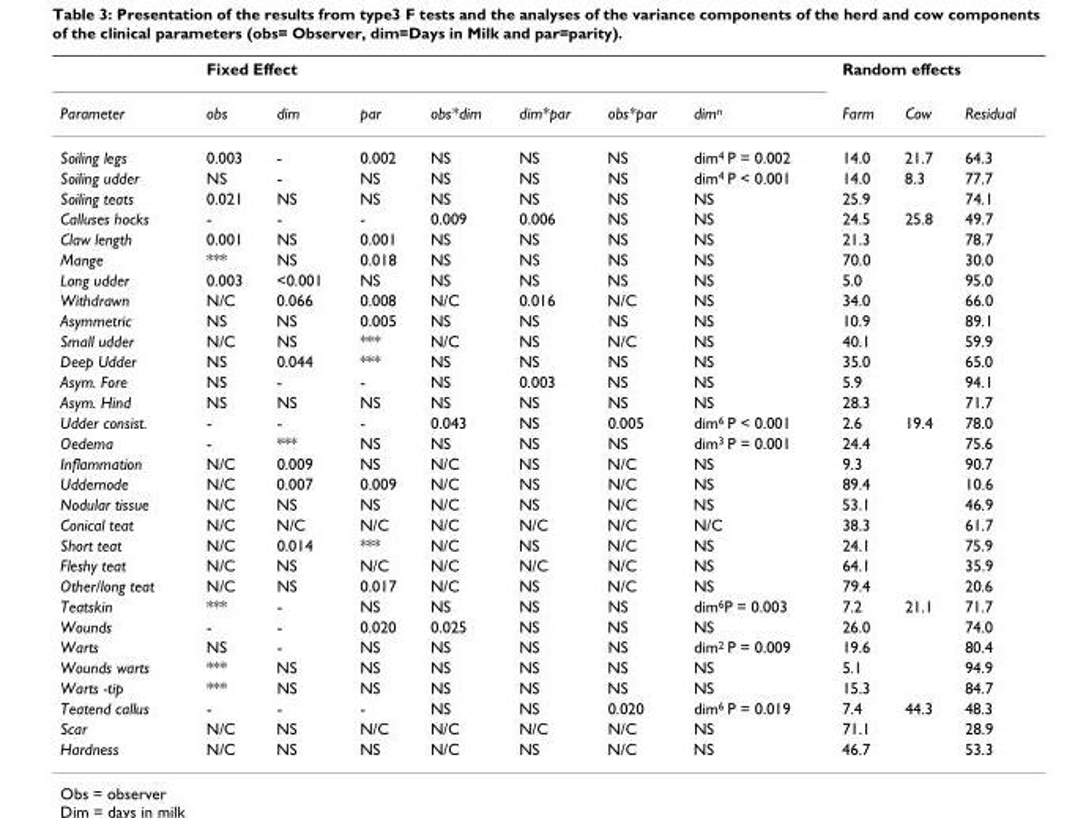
<table><thead><tr><td rowspan="2">Parameter</td><td colspan="7">Fixed Effect</td><td colspan="3">Random effects</td></tr><tr><td>obs</td><td>dim</td><td>par</td><td>obs*dim</td><td>dim*par</td><td>obs*par</td><td>dim<sup>n</sup></td><td>Farm</td><td>Cow</td><td>Residual</td></tr></thead><tbody><tr><td>Soiling legs</td><td>0.003</td><td>-</td><td>0.002</td><td>NS</td><td>NS</td><td>NS</td><td>dim<sup>4</sup> P = 0.002</td><td>14.0</td><td>21.7</td><td>64.3</td></tr><tr><td>Soiling udder</td><td>NS</td><td>-</td><td>NS</td><td>NS</td><td>NS</td><td>NS</td><td>dim<sup>4</sup> P &lt; 0.001</td><td>14.0</td><td>8.3</td><td>77.7</td></tr><tr><td>Soiling teats</td><td>0.021</td><td>NS</td><td>NS</td><td>NS</td><td>NS</td><td>NS</td><td>NS</td><td>25.9</td><td></td><td>74.1</td></tr><tr><td>Calluses hocks</td><td>-</td><td>-</td><td>-</td><td>0.009</td><td>0.006</td><td>NS</td><td>NS</td><td>24.5</td><td>25.8</td><td>49.7</td></tr><tr><td>Claw length</td><td>0.001</td><td>NS</td><td>0.001</td><td>NS</td><td>NS</td><td>NS</td><td>NS</td><td>21.3</td><td></td><td>78.7</td></tr><tr><td>Mange</td><td>***</td><td>NS</td><td>0.018</td><td>NS</td><td>NS</td><td>NS</td><td>NS</td><td>70.0</td><td></td><td>30.0</td></tr><tr><td>Long udder</td><td>0.003</td><td>&lt;0.001</td><td>NS</td><td>NS</td><td>NS</td><td>NS</td><td>NS</td><td>5.0</td><td></td><td>95.0</td></tr><tr><td>Withdrawn</td><td>N/C</td><td>0.066</td><td>0.008</td><td>N/C</td><td>0.016</td><td>N/C</td><td>NS</td><td>34.0</td><td></td><td>66.0</td></tr><tr><td>Asymmetric</td><td>NS</td><td>NS</td><td>0.005</td><td>NS</td><td>NS</td><td>NS</td><td>NS</td><td>10.9</td><td></td><td>89.1</td></tr><tr><td>Small udder</td><td>N/C</td><td>NS</td><td>***</td><td>N/C</td><td>NS</td><td>N/C</td><td>NS</td><td>40.1</td><td></td><td>59.9</td></tr><tr><td>Deep Udder</td><td>NS</td><td>0.044</td><td>***</td><td>NS</td><td>NS</td><td>NS</td><td>NS</td><td>35.0</td><td></td><td>65.0</td></tr><tr><td>Asym. Fore</td><td>NS</td><td>-</td><td>-</td><td>NS</td><td>0.003</td><td>NS</td><td>NS</td><td>5.9</td><td></td><td>94.1</td></tr><tr><td>Asym. Hind</td><td>NS</td><td>NS</td><td>NS</td><td>NS</td><td>NS</td><td>NS</td><td>NS</td><td>28.3</td><td></td><td>71.7</td></tr><tr><td>Udder consist.</td><td>-</td><td>-</td><td>-</td><td>0.043</td><td>NS</td><td>0.005</td><td>dim<sup>6</sup> P &lt; 0.001</td><td>2.6</td><td>19.4</td><td>78.0</td></tr><tr><td>Oedema</td><td>-</td><td>***</td><td>NS</td><td>NS</td><td>NS</td><td>NS</td><td>dim<sup>3</sup> P = 0.001</td><td>24.4</td><td></td><td>75.6</td></tr><tr><td>Inflammation</td><td>N/C</td><td>0.009</td><td>NS</td><td>N/C</td><td>NS</td><td>N/C</td><td>NS</td><td>9.3</td><td></td><td>90.7</td></tr><tr><td>Uddernode</td><td>N/C</td><td>0.007</td><td>0.009</td><td>N/C</td><td>NS</td><td>N/C</td><td>NS</td><td>89.4</td><td></td><td>10.6</td></tr><tr><td>Nodular tissue</td><td>N/C</td><td>NS</td><td>NS</td><td>N/C</td><td>NS</td><td>N/C</td><td>NS</td><td>53.1</td><td></td><td>46.9</td></tr><tr><td>Conical teat</td><td>N/C</td><td>N/C</td><td>N/C</td><td>N/C</td><td>N/C</td><td>N/C</td><td>N/C</td><td>38.3</td><td></td><td>61.7</td></tr><tr><td>Short teat</td><td>N/C</td><td>0.014</td><td>***</td><td>N/C</td><td>NS</td><td>N/C</td><td>NS</td><td>24.1</td><td></td><td>75.9</td></tr><tr><td>Fleshy teat</td><td>N/C</td><td>NS</td><td>N/C</td><td>N/C</td><td>N/C</td><td>N/C</td><td>NS</td><td>64.1</td><td></td><td>35.9</td></tr><tr><td>Other/long teat</td><td>N/C</td><td>NS</td><td>0.017</td><td>N/C</td><td>NS</td><td>N/C</td><td>NS</td><td>79.4</td><td></td><td>20.6</td></tr><tr><td>Teatskin</td><td>***</td><td>-</td><td>NS</td><td>NS</td><td>NS</td><td>NS</td><td>dim<sup>6</sup>P = 0.003</td><td>7.2</td><td>21.1</td><td>71.7</td></tr><tr><td>Wounds</td><td>-</td><td>-</td><td>0.020</td><td>0.025</td><td>NS</td><td>NS</td><td>NS</td><td>26.0</td><td></td><td>74.0</td></tr><tr><td>Warts</td><td>NS</td><td>-</td><td>NS</td><td>NS</td><td>NS</td><td>NS</td><td>dim<sup>2</sup> P = 0.009</td><td>19.6</td><td></td><td>80.4</td></tr><tr><td>Wounds warts</td><td>***</td><td>NS</td><td>NS</td><td>NS</td><td>NS</td><td>NS</td><td>NS</td><td>5.1</td><td></td><td>94.9</td></tr><tr><td>Warts -tip</td><td>***</td><td>NS</td><td>NS</td><td>NS</td><td>NS</td><td>NS</td><td>NS</td><td>15.3</td><td></td><td>84.7</td></tr><tr><td>Teatend callus</td><td>-</td><td>-</td><td>-</td><td>NS</td><td>NS</td><td>0.020</td><td>dim<sup>6</sup> P = 0.019</td><td>7.4</td><td>44.3</td><td>48.3</td></tr><tr><td>Scar</td><td>N/C</td><td>NS</td><td>N/C</td><td>N/C</td><td>N/C</td><td>N/C</td><td>NS</td><td>71.1</td><td></td><td>28.9</td></tr><tr><td>Hardness</td><td>N/C</td><td>NS</td><td>NS</td><td>N/C</td><td>NS</td><td>N/C</td><td>NS</td><td>46.7</td><td></td><td>53.3</td></tr></tbody></table>